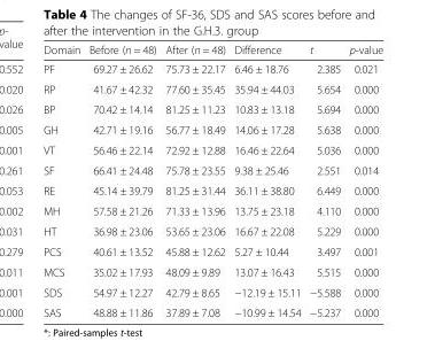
<table><thead><tr><td>Domain</td><td>Before (n = 48)</td><td>After (n = 48)</td><td>Difference</td><td>t</td><td>p-value</td></tr></thead><tbody><tr><td>PF</td><td>69.27 ± 26.62</td><td>75.73 ± 22.17</td><td>6.46 ± 18.76</td><td>2.385</td><td>0.021</td></tr><tr><td>RP</td><td>41.67 ± 42.32</td><td>77.60 ± 35.45</td><td>35.94 ± 44.03</td><td>5.654</td><td>0.000</td></tr><tr><td>BP</td><td>70.42 ± 14.14</td><td>81.25 ± 11.23</td><td>10.83 ± 13.18</td><td>5.694</td><td>0.000</td></tr><tr><td>GH</td><td>42.71 ± 19.16</td><td>56.77 ± 18.49</td><td>14.06 ± 17.28</td><td>5.638</td><td>0.000</td></tr><tr><td>VT</td><td>56.46 ± 22.14</td><td>72.92 ± 12.88</td><td>16.46 ± 22.64</td><td>5.036</td><td>0.000</td></tr><tr><td>SF</td><td>66.41 ± 24.48</td><td>75.78 ± 23.55</td><td>9.38 ± 25.46</td><td>2.551</td><td>0.014</td></tr><tr><td>RE</td><td>45.14 ± 39.79</td><td>81.25 ± 31.44</td><td>36.11 ± 38.80</td><td>6.449</td><td>0.000</td></tr><tr><td>MH</td><td>57.58 ± 21.26</td><td>71.33 ± 13.96</td><td>13.75 ± 23.18</td><td>4.110</td><td>0.000</td></tr><tr><td>HT</td><td>36.98 ± 23.06</td><td>53.65 ± 23.06</td><td>16.67 ± 22.08</td><td>5.229</td><td>0.000</td></tr><tr><td>PCS</td><td>40.61 ± 13.52</td><td>45.88 ± 12.62</td><td>5.27 ± 10.44</td><td>3.497</td><td>0.001</td></tr><tr><td>MCS</td><td>35.02 ± 17.93</td><td>48.09 ± 9.89</td><td>13.07 ± 16.43</td><td>5.515</td><td>0.000</td></tr><tr><td>SDS</td><td>54.97 ± 12.27</td><td>42.79 ± 8.65</td><td>−12.19 ± 15.11</td><td>−5.588</td><td>0.000</td></tr><tr><td>SAS</td><td>48.88 ± 11.86</td><td>37.89 ± 7.08</td><td>−10.99 ± 14.54</td><td>−5.237</td><td>0.000</td></tr></tbody></table>